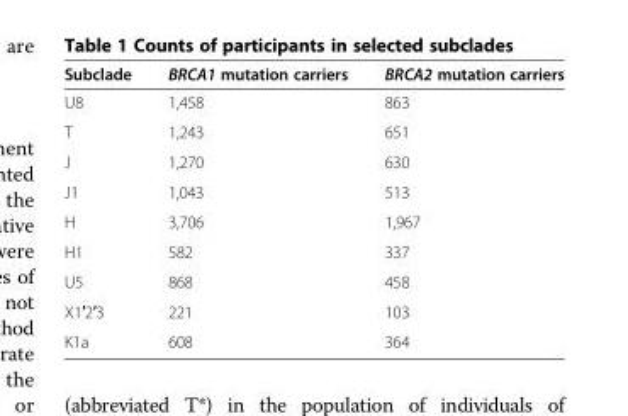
<table><thead><tr><td>Subclade</td><td>BRCA1 mutation carriers</td><td>BRCA2 mutation carriers</td></tr></thead><tbody><tr><td>U8</td><td>1,458</td><td>863</td></tr><tr><td>T</td><td>1,243</td><td>651</td></tr><tr><td>J</td><td>1,270</td><td>630</td></tr><tr><td>J1</td><td>1,043</td><td>513</td></tr><tr><td>H</td><td>3,706</td><td>1,967</td></tr><tr><td>H1</td><td>582</td><td>337</td></tr><tr><td>U5</td><td>868</td><td>458</td></tr><tr><td>X1′2′3</td><td>221</td><td>103</td></tr><tr><td>K1a</td><td>608</td><td>364</td></tr></tbody></table>